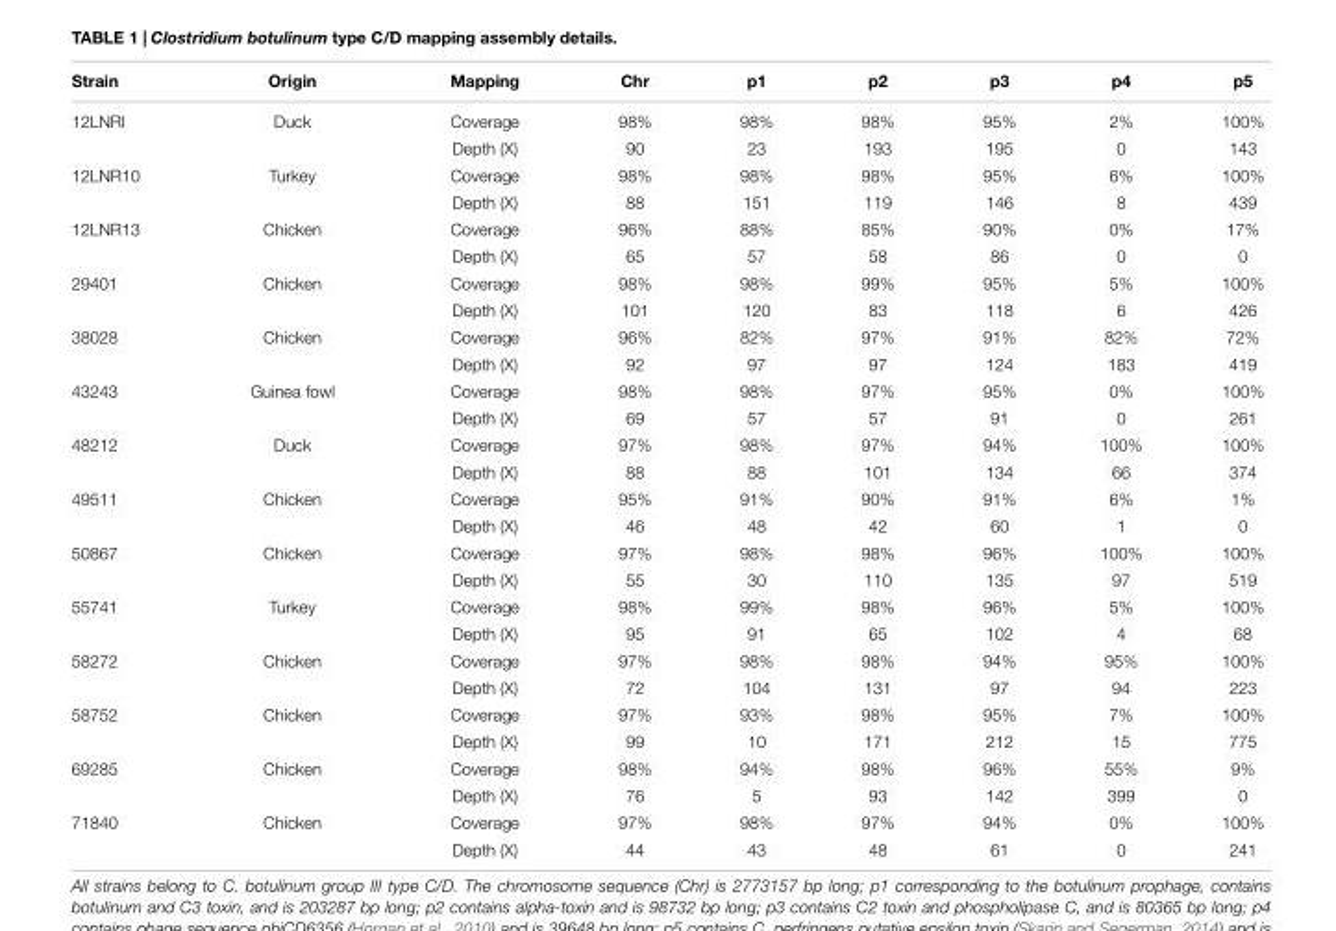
<table><thead><tr><td>Strain</td><td>Origin</td><td>Mapping</td><td>Chr</td><td>p1</td><td>p2</td><td>p3</td><td>p4</td><td>p5</td></tr></thead><tbody><tr><td rowspan="2">12LNRI</td><td>Duck</td><td>Coverage</td><td>98%</td><td>98%</td><td>98%</td><td>95%</td><td>2%</td><td>100%</td></tr><tr><td></td><td>Depth (X)</td><td>90</td><td>23</td><td>193</td><td>195</td><td>0</td><td>143</td></tr><tr><td rowspan="2">12LNR10</td><td>Turkey</td><td>Coverage</td><td>98%</td><td>98%</td><td>98%</td><td>95%</td><td>6%</td><td>100%</td></tr><tr><td></td><td>Depth (X)</td><td>88</td><td>151</td><td>119</td><td>146</td><td>8</td><td>439</td></tr><tr><td rowspan="2">12LNR13</td><td>Chicken</td><td>Coverage</td><td>96%</td><td>88%</td><td>85%</td><td>90%</td><td>0%</td><td>17%</td></tr><tr><td></td><td>Depth (X)</td><td>65</td><td>57</td><td>58</td><td>86</td><td>0</td><td>0</td></tr><tr><td rowspan="2">29401</td><td>Chicken</td><td>Coverage</td><td>98%</td><td>98%</td><td>99%</td><td>95%</td><td>5%</td><td>100%</td></tr><tr><td></td><td>Depth (X)</td><td>101</td><td>120</td><td>83</td><td>118</td><td>6</td><td>426</td></tr><tr><td rowspan="2">38028</td><td>Chicken</td><td>Coverage</td><td>96%</td><td>82%</td><td>97%</td><td>91%</td><td>82%</td><td>72%</td></tr><tr><td></td><td>Depth (X)</td><td>92</td><td>97</td><td>97</td><td>124</td><td>183</td><td>419</td></tr><tr><td rowspan="2">43243</td><td>Guinea fowl</td><td>Coverage</td><td>98%</td><td>98%</td><td>97%</td><td>95%</td><td>0%</td><td>100%</td></tr><tr><td></td><td>Depth (X)</td><td>69</td><td>57</td><td>57</td><td>91</td><td>0</td><td>261</td></tr><tr><td rowspan="2">48212</td><td>Duck</td><td>Coverage</td><td>97%</td><td>98%</td><td>97%</td><td>94%</td><td>100%</td><td>100%</td></tr><tr><td></td><td>Depth (X)</td><td>88</td><td>88</td><td>101</td><td>134</td><td>66</td><td>374</td></tr><tr><td rowspan="2">49511</td><td>Chicken</td><td>Coverage</td><td>95%</td><td>91%</td><td>90%</td><td>91%</td><td>6%</td><td>1%</td></tr><tr><td></td><td>Depth (X)</td><td>46</td><td>48</td><td>42</td><td>60</td><td>1</td><td>0</td></tr><tr><td rowspan="2">50867</td><td>Chicken</td><td>Coverage</td><td>97%</td><td>98%</td><td>98%</td><td>96%</td><td>100%</td><td>100%</td></tr><tr><td></td><td>Depth (X)</td><td>55</td><td>30</td><td>110</td><td>135</td><td>97</td><td>519</td></tr><tr><td rowspan="2">55741</td><td>Turkey</td><td>Coverage</td><td>98%</td><td>99%</td><td>98%</td><td>96%</td><td>5%</td><td>100%</td></tr><tr><td></td><td>Depth (X)</td><td>95</td><td>91</td><td>65</td><td>102</td><td>4</td><td>68</td></tr><tr><td rowspan="2">58272</td><td>Chicken</td><td>Coverage</td><td>97%</td><td>98%</td><td>98%</td><td>94%</td><td>95%</td><td>100%</td></tr><tr><td></td><td>Depth (X)</td><td>72</td><td>104</td><td>131</td><td>97</td><td>94</td><td>223</td></tr><tr><td rowspan="2">58752</td><td>Chicken</td><td>Coverage</td><td>97%</td><td>93%</td><td>98%</td><td>95%</td><td>7%</td><td>100%</td></tr><tr><td></td><td>Depth (X)</td><td>99</td><td>10</td><td>171</td><td>212</td><td>15</td><td>775</td></tr><tr><td rowspan="2">69285</td><td>Chicken</td><td>Coverage</td><td>98%</td><td>94%</td><td>98%</td><td>96%</td><td>55%</td><td>9%</td></tr><tr><td></td><td>Depth (X)</td><td>76</td><td>5</td><td>93</td><td>142</td><td>399</td><td>0</td></tr><tr><td rowspan="2">71840</td><td>Chicken</td><td>Coverage</td><td>97%</td><td>98%</td><td>97%</td><td>94%</td><td>0%</td><td>100%</td></tr><tr><td></td><td>Depth (X)</td><td>44</td><td>43</td><td>48</td><td>61</td><td>0</td><td>241</td></tr></tbody></table>